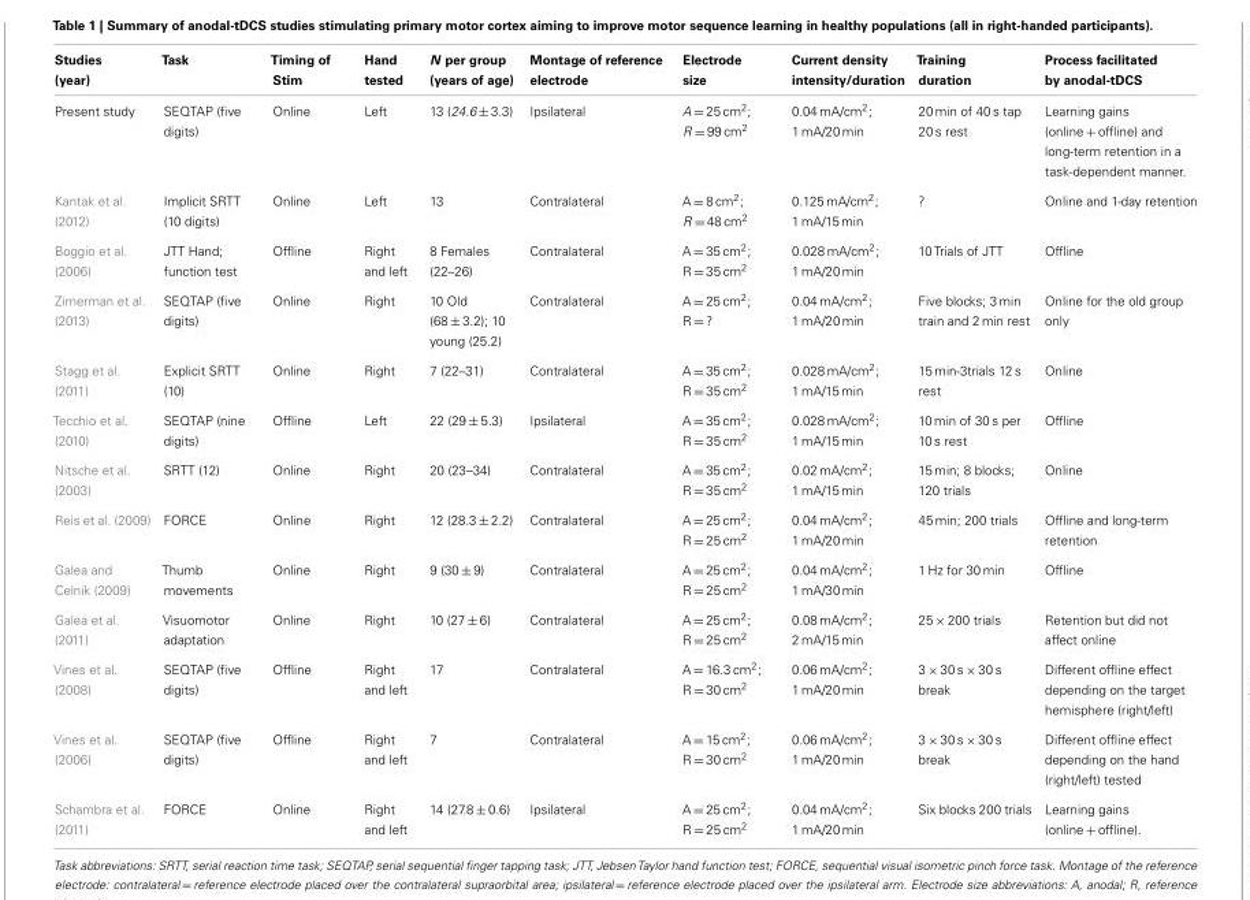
<table><thead><tr><td>Studies (year)</td><td>Task</td><td>Timing of Stim</td><td>Hand tested</td><td>N per group (years of age)</td><td>Montage of reference electrode</td><td>Electrode size</td><td>Current density intensity/duration</td><td>Training duration</td><td>Process facilitated by anodal-tDCS</td></tr></thead><tbody><tr><td>Present study</td><td>SEQTAP (five digits)</td><td>Online</td><td>Left</td><td>13 (24.6 ± 3.3)</td><td>Ipsilateral</td><td>A = 25 cm<sup>2</sup>; R = 99 cm<sup>2</sup></td><td>0.04 mA/cm<sup>2</sup>; 1 mA/20 min</td><td>20 min of 40 s tap 20 s rest</td><td>Learning gains (online + offline) and long-term retention in a task-dependent manner.</td></tr><tr><td>Kantak et al. (2012)</td><td>Implicit SRTT (10 digits)</td><td>Online</td><td>Left</td><td>13</td><td>Contralateral</td><td>A = 8 cm<sup>2</sup>; R = 48 cm<sup>2</sup></td><td>0.125 mA/cm<sup>2</sup>; 1 mA/15 min</td><td>?</td><td>Online and 1-day retention</td></tr><tr><td>Boggio et al. (2006)</td><td>JTT Hand; function test</td><td>Offline</td><td>Right and left</td><td>8 Females (22–26)</td><td>Contralateral</td><td>A = 35 cm<sup>2</sup>; R = 35 cm<sup>2</sup></td><td>0.028 mA/cm<sup>2</sup>; 1 mA/20 min</td><td>10 Trials of JTT</td><td>Offline</td></tr><tr><td>Zimerman et al. (2013)</td><td>SEQTAP (five digits)</td><td>Online</td><td>Right</td><td>10 Old (68 ± 3.2); 10 young (25.2)</td><td>Contralateral</td><td>A = 25 cm<sup>2</sup>; R = ?</td><td>0.04 mA/cm<sup>2</sup>; 1 mA/20 min</td><td>Five blocks; 3 min train and 2 min rest</td><td>Online for the old group only</td></tr><tr><td>Stagg et al. (2011)</td><td>Explicit SRTT (10)</td><td>Online</td><td>Right</td><td>7 (22–31)</td><td>Contralateral</td><td>A = 35 cm<sup>2</sup>; R = 35 cm<sup>2</sup></td><td>0.028 mA/cm<sup>2</sup>; 1 mA/15 min</td><td>15 min-3trials 12 s rest</td><td>Online</td></tr><tr><td>Tecchio et al. (2010)</td><td>SEQTAP (nine digits)</td><td>Offline</td><td>Left</td><td>22 (29 ± 5.3)</td><td>Ipsilateral</td><td>A = 35 cm<sup>2</sup>; R = 35 cm<sup>2</sup></td><td>0.028 mA/cm<sup>2</sup>; 1 mA/15 min</td><td>10 min of 30 s per 10 s rest</td><td>Offline</td></tr><tr><td>Nitsche et al. (2003)</td><td>SRTT (12)</td><td>Online</td><td>Right</td><td>20 (23–34)</td><td>Contralateral</td><td>A = 35 cm<sup>2</sup>; R = 35 cm<sup>2</sup></td><td>0.02 mA/cm<sup>2</sup>; 1 mA/15 min</td><td>15 min; 8 blocks; 120 trials</td><td>Online</td></tr><tr><td>Reis et al. (2009)</td><td>FORCE</td><td>Online</td><td>Right</td><td>12 (28.3 ± 2.2)</td><td>Contralateral</td><td>A = 25 cm<sup>2</sup>; R = 25 cm<sup>2</sup></td><td>0.04 mA/cm<sup>2</sup>; 1 mA/20 min</td><td>45 min; 200 trials</td><td>Offline and long-term retention</td></tr><tr><td>Galea and Celnik (2009)</td><td>Thumb movements</td><td>Online</td><td>Right</td><td>9 (30 ± 9)</td><td>Contralateral</td><td>A = 25 cm<sup>2</sup>; R = 25 cm<sup>2</sup></td><td>0.04 mA/cm<sup>2</sup>; 1 mA/30 min</td><td>1 Hz for 30 min</td><td>Offline</td></tr><tr><td>Galea et al. (2011)</td><td>Visuomotor adaptation</td><td>Online</td><td>Right</td><td>10 (27 ± 6)</td><td>Contralateral</td><td>A = 25 cm<sup>2</sup>; R = 25 cm<sup>2</sup></td><td>0.08 mA/cm<sup>2</sup>; 2 mA/15 min</td><td>25 × 200 trials</td><td>Retention but did not affect online</td></tr><tr><td>Vines et al. (2008)</td><td>SEQTAP (five digits)</td><td>Offline</td><td>Right and left</td><td>17</td><td>Contralateral</td><td>A = 16.3 cm<sup>2</sup>; R = 30 cm<sup>2</sup></td><td>0.06 mA/cm<sup>2</sup>; 1 mA/20 min</td><td>3 × 30 s × 30 s break</td><td>Different offline effect depending on the target hemisphere (right/left)</td></tr><tr><td>Vines et al. (2006)</td><td>SEQTAP (five digits)</td><td>Offline</td><td>Right and left</td><td>7</td><td>Contralateral</td><td>A = 15 cm<sup>2</sup>; R = 30 cm<sup>2</sup></td><td>0.06 mA/cm<sup>2</sup>; 1 mA/20 min</td><td>3 × 30 s × 30 s break</td><td>Different offline effect depending on the hand (right/left) tested</td></tr><tr><td>Schambra et al. (2011)</td><td>FORCE</td><td>Online</td><td>Right and left</td><td>14 (27.8 ± 0.6)</td><td>Ipsilateral</td><td>A = 25 cm<sup>2</sup>; R = 25 cm<sup>2</sup></td><td>0.04 mA/cm<sup>2</sup>; 1 mA/20 min</td><td>Six blocks 200 trials</td><td>Learning gains (online + offline).</td></tr></tbody></table>